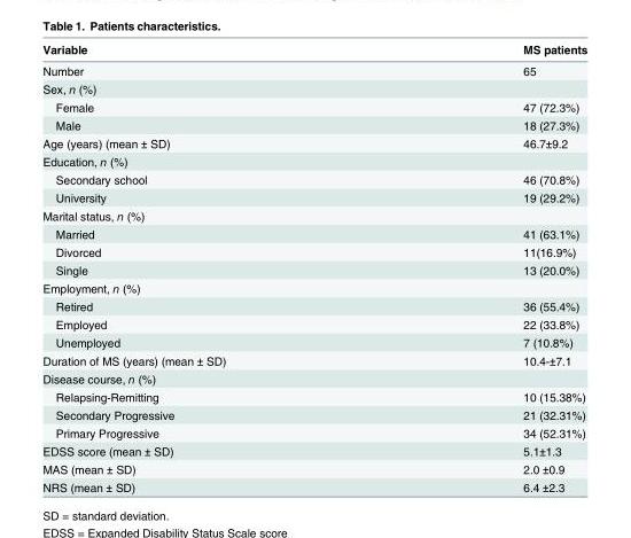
<table><thead><tr><td>Variable</td><td>MS patients</td></tr></thead><tbody><tr><td>Number</td><td>65</td></tr><tr><td colspan="2">Sex, n (%)</td></tr><tr><td>Female</td><td>47 (72.3%)</td></tr><tr><td>Male</td><td>18 (27.3%)</td></tr><tr><td>Age (years) (mean ± SD)</td><td>46.7±9.2</td></tr><tr><td colspan="2">Education, n (%)</td></tr><tr><td>Secondary school</td><td>46 (70.8%)</td></tr><tr><td>University</td><td>19 (29.2%)</td></tr><tr><td colspan="2">Marital status, n (%)</td></tr><tr><td>Married</td><td>41 (63.1%)</td></tr><tr><td>Divorced</td><td>11(16.9%)</td></tr><tr><td>Single</td><td>13 (20.0%)</td></tr><tr><td colspan="2">Employment, n (%)</td></tr><tr><td>Retired</td><td>36 (55.4%)</td></tr><tr><td>Employed</td><td>22 (33.8%)</td></tr><tr><td>Unemployed</td><td>7 (10.8%)</td></tr><tr><td>Duration of MS (years) (mean ± SD)</td><td>10.4-±7.1</td></tr><tr><td colspan="2">Disease course, n (%)</td></tr><tr><td>Relapsing-Remitting</td><td>10 (15.38%)</td></tr><tr><td>Secondary Progressive</td><td>21 (32.31%)</td></tr><tr><td>Primary Progressive</td><td>34 (52.31%)</td></tr><tr><td>EDSS score (mean ± SD)</td><td>5.1±1.3</td></tr><tr><td>MAS (mean ± SD)</td><td>2.0 ±0.9</td></tr><tr><td>NRS (mean ± SD)</td><td>6.4 ±2.3</td></tr></tbody></table>